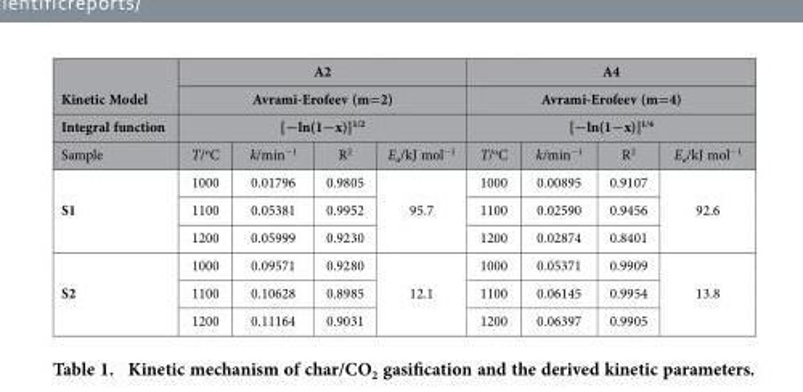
<table><thead><tr><td rowspan="4">Kinetic Model Integral function Sample</td><td rowspan="3" colspan="4">A2 Avrami-Erofeev (m=2) [−ln(1−x)]<sup>1/2</sup></td><td rowspan="3" colspan="4">A4 Avrami-Erofeev (m=4) [−ln(1−x)]<sup>1/4</sup></td></tr><tr></tr><tr></tr><tr><td>T/<sup>o</sup>C</td><td>k/min<sup>−1</sup></td><td>R<sup>2</sup></td><td>E<sub>a</sub>/kJ mol<sup>−1</sup></td><td>T/<sup>o</sup>C</td><td>k/min<sup>−1</sup></td><td>R<sup>2</sup></td><td>E<sub>a</sub>/kJ mol<sup>−1</sup></td></tr></thead><tbody><tr><td rowspan="3">S1</td><td>1000</td><td>0.01796</td><td>0.9805</td><td rowspan="3">95.7</td><td>1000</td><td>0.00895</td><td>0.9107</td><td rowspan="3">92.6</td></tr><tr><td>1100</td><td>0.05381</td><td>0.9952</td><td>1100</td><td>0.02590</td><td>0.9456</td></tr><tr><td>1200</td><td>0.05999</td><td>0.9230</td><td>1200</td><td>0.02874</td><td>0.8401</td></tr><tr><td rowspan="3">S2</td><td>1000</td><td>0.09571</td><td>0.9280</td><td rowspan="3">12.1</td><td>1000</td><td>0.05371</td><td>0.9909</td><td rowspan="3">13.8</td></tr><tr><td>1100</td><td>0.10628</td><td>0.8985</td><td>1100</td><td>0.06145</td><td>0.9954</td></tr><tr><td>1200</td><td>0.11164</td><td>0.9031</td><td>1200</td><td>0.06397</td><td>0.9905</td></tr></tbody></table>